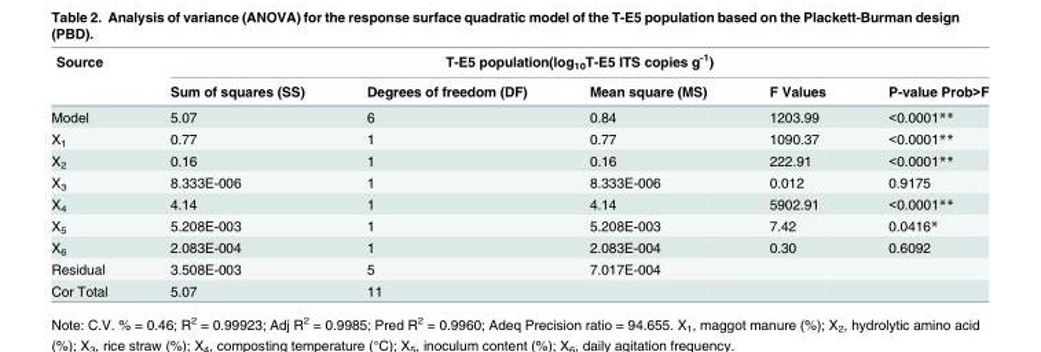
<table><thead><tr><td rowspan="2">Source</td><td colspan="5">T-E5 population(log<sub>10</sub>T-E5 ITS copies g<sup>-1</sup>)</td></tr><tr><td>Sum of squares (SS)</td><td>Degrees of freedom (DF)</td><td>Mean square (MS)</td><td>F Values</td><td>P-value Prob&gt;F</td></tr></thead><tbody><tr><td>Model</td><td>5.07</td><td>6</td><td>0.84</td><td>1203.99</td><td>&lt;0.0001**</td></tr><tr><td>X<sub>1</sub></td><td>0.77</td><td>1</td><td>0.77</td><td>1090.37</td><td>&lt;0.0001**</td></tr><tr><td>X<sub>2</sub></td><td>0.16</td><td>1</td><td>0.16</td><td>222.91</td><td>&lt;0.0001**</td></tr><tr><td>X<sub>3</sub></td><td>8.333E-006</td><td>1</td><td>8.333E-006</td><td>0.012</td><td>0.9175</td></tr><tr><td>X<sub>4</sub></td><td>4.14</td><td>1</td><td>4.14</td><td>5902.91</td><td>&lt;0.0001**</td></tr><tr><td>X<sub>5</sub></td><td>5.208E-003</td><td>1</td><td>5.208E-003</td><td>7.42</td><td>0.0416*</td></tr><tr><td>X<sub>6</sub></td><td>2.083E-004</td><td>1</td><td>2.083E-004</td><td>0.30</td><td>0.6092</td></tr><tr><td>Residual</td><td>3.508E-003</td><td>5</td><td>7.017E-004</td><td></td><td></td></tr><tr><td>Cor Total</td><td>5.07</td><td>11</td><td></td><td></td><td></td></tr></tbody></table>